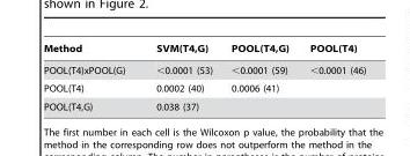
<table><thead><tr><td>Method</td><td>SVM(T4,G)</td><td>POOL(T4,G)</td><td>POOL(T4)</td></tr></thead><tbody><tr><td>POOL(T4)xPOOL(G)</td><td>&lt;0.0001 (53)</td><td>&lt;0.0001 (59)</td><td>&lt;0.0001 (46)</td></tr><tr><td>POOL(T4)</td><td>0.0002 (40)</td><td>0.0006 (41)</td><td></td></tr><tr><td>POOL(T4,G)</td><td>0.038 (37)</td><td></td><td></td></tr></tbody></table>